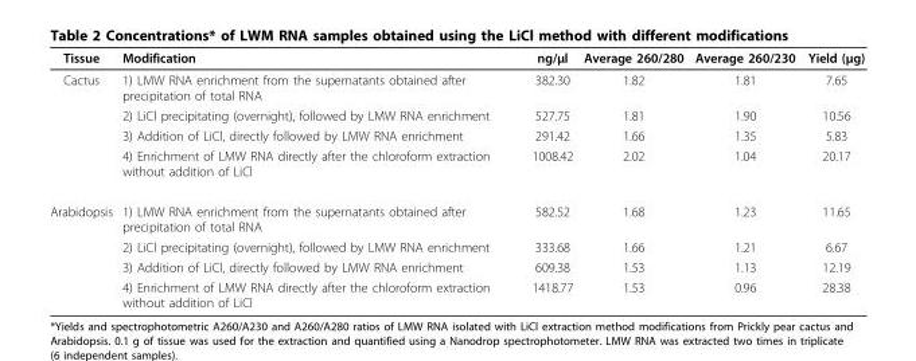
<table><thead><tr><td>Tissue</td><td>Modification</td><td>ng/μl</td><td>Average 260/280</td><td>Average 260/230</td><td>Yield (μg)</td></tr></thead><tbody><tr><td rowspan="4">Cactus</td><td>1) LMW RNA enrichment from the supernatants obtained after precipitation of total RNA</td><td>382.30</td><td>1.82</td><td>1.81</td><td>7.65</td></tr><tr><td>2) LiCl precipitating (overnight), followed by LMW RNA enrichment</td><td>527.75</td><td>1.81</td><td>1.90</td><td>10.56</td></tr><tr><td>3) Addition of LiCl, directly followed by LMW RNA enrichment</td><td>291.42</td><td>1.66</td><td>1.35</td><td>5.83</td></tr><tr><td>4) Enrichment of LMW RNA directly after the chloroform extraction without addition of LiCl</td><td>1008.42</td><td>2.02</td><td>1.04</td><td>20.17</td></tr><tr><td rowspan="4">Arabidopsis</td><td>1) LMW RNA enrichment from the supernatants obtained after precipitation of total RNA</td><td>582.52</td><td>1.68</td><td>1.23</td><td>11.65</td></tr><tr><td>2) LiCl precipitating (overnight), followed by LMW RNA enrichment</td><td>333.68</td><td>1.66</td><td>1.21</td><td>6.67</td></tr><tr><td>3) Addition of LiCl, directly followed by LMW RNA enrichment</td><td>609.38</td><td>1.53</td><td>1.13</td><td>12.19</td></tr><tr><td>4) Enrichment of LMW RNA directly after the chloroform extraction without addition of LiCl</td><td>1418.77</td><td>1.53</td><td>0.96</td><td>28.38</td></tr></tbody></table>